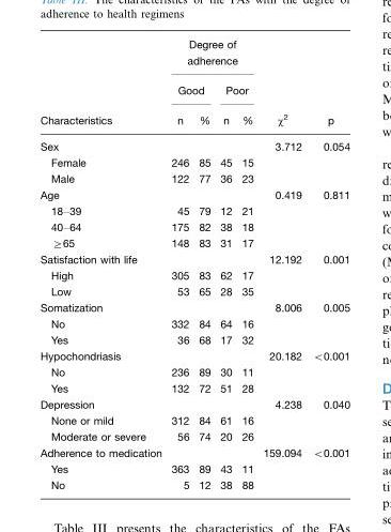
<table><thead><tr><td rowspan="3">Characteristics</td><td colspan="4">Degree of adherence</td><td rowspan="3">χ<sup>2</sup></td><td rowspan="3">p</td></tr><tr><td colspan="2">Good</td><td colspan="2">Poor</td></tr><tr><td>n</td><td>%</td><td>n</td><td>%</td></tr></thead><tbody><tr><td>Sex</td><td></td><td></td><td></td><td></td><td>3.712</td><td>0.054</td></tr><tr><td>Female</td><td>246</td><td>85</td><td>45</td><td>15</td><td></td><td></td></tr><tr><td>Male</td><td>122</td><td>77</td><td>36</td><td>23</td><td></td><td></td></tr><tr><td>Age</td><td></td><td></td><td></td><td></td><td>0.419</td><td>0.811</td></tr><tr><td>18–39</td><td>45</td><td>79</td><td>12</td><td>21</td><td></td><td></td></tr><tr><td>40–64</td><td>175</td><td>82</td><td>38</td><td>18</td><td></td><td></td></tr><tr><td>≥65</td><td>148</td><td>83</td><td>31</td><td>17</td><td></td><td></td></tr><tr><td>Satisfaction with life</td><td></td><td></td><td></td><td></td><td>12.192</td><td>0.001</td></tr><tr><td>High</td><td>305</td><td>83</td><td>62</td><td>17</td><td></td><td></td></tr><tr><td>Low</td><td>53</td><td>65</td><td>28</td><td>35</td><td></td><td></td></tr><tr><td>Somatization</td><td></td><td></td><td></td><td></td><td>8.006</td><td>0.005</td></tr><tr><td>No</td><td>332</td><td>84</td><td>64</td><td>16</td><td></td><td></td></tr><tr><td>Yes</td><td>36</td><td>68</td><td>17</td><td>32</td><td></td><td></td></tr><tr><td>Hypochondriasis</td><td></td><td></td><td></td><td></td><td>20.182</td><td>&lt;0.001</td></tr><tr><td>No</td><td>236</td><td>89</td><td>30</td><td>11</td><td></td><td></td></tr><tr><td>Yes</td><td>132</td><td>72</td><td>51</td><td>28</td><td></td><td></td></tr><tr><td>Depression</td><td></td><td></td><td></td><td></td><td>4.238</td><td>0.040</td></tr><tr><td>None or mild</td><td>312</td><td>84</td><td>61</td><td>16</td><td></td><td></td></tr><tr><td>Moderate or severe</td><td>56</td><td>74</td><td>20</td><td>26</td><td></td><td></td></tr><tr><td>Adherence to medication</td><td></td><td></td><td></td><td></td><td>159.094</td><td>&lt;0.001</td></tr><tr><td>Yes</td><td>363</td><td>89</td><td>43</td><td>11</td><td></td><td></td></tr><tr><td>No</td><td>5</td><td>12</td><td>38</td><td>88</td><td></td><td></td></tr></tbody></table>